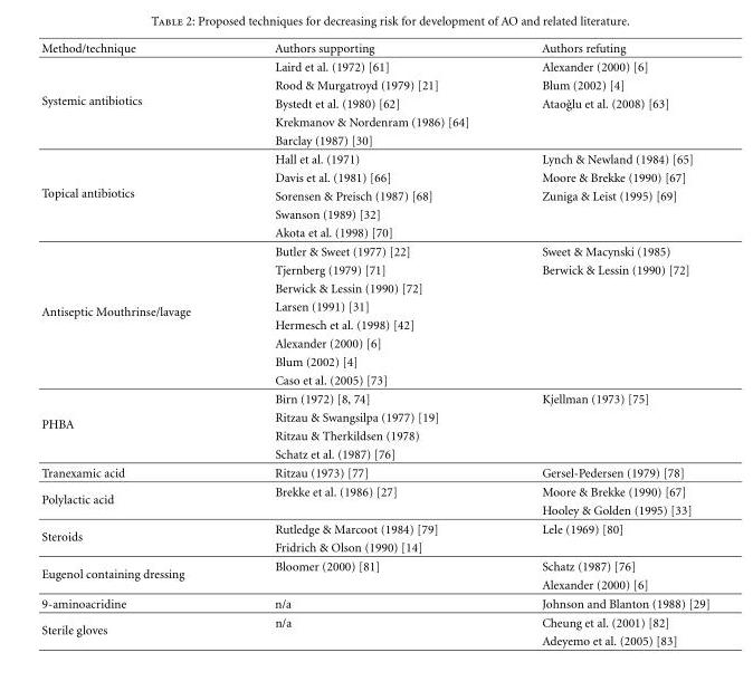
<table><thead><tr><td>Method/technique</td><td>Authors supporting</td><td>Authors refuting</td></tr></thead><tbody><tr><td rowspan="5">Systemic antibiotics</td><td>Laird et al. (1972) [61]</td><td>Alexander (2000) [6]</td></tr><tr><td>Rood &amp; Murgatroyd (1979) [21]</td><td>Blum (2002) [4]</td></tr><tr><td>Bystedt et al. (1980) [62]</td><td>Ataoˇglu et al. (2008) [63]</td></tr><tr><td>Krekmanov &amp; Nordenram (1986) [64]</td><td></td></tr><tr><td>Barclay (1987) [30]</td><td></td></tr><tr><td rowspan="5">Topical antibiotics</td><td>Hall et al. (1971)</td><td>Lynch &amp; Newland (1984) [65]</td></tr><tr><td>Davis et al. (1981) [66]</td><td>Moore &amp; Brekke (1990) [67]</td></tr><tr><td>Sorensen &amp; Preisch (1987) [68]</td><td>Zuniga &amp; Leist (1995) [69]</td></tr><tr><td>Swanson (1989) [32]</td><td></td></tr><tr><td>Akota et al. (1998) [70]</td><td></td></tr><tr><td rowspan="8">Antiseptic Mouthrinse/lavage</td><td>Butler &amp; Sweet (1977) [22]</td><td>Sweet &amp; Macynski (1985)</td></tr><tr><td>Tjernberg (1979) [71]</td><td>Berwick &amp; Lessin (1990) [72]</td></tr><tr><td>Berwick &amp; Lessin (1990) [72]</td><td></td></tr><tr><td>Larsen (1991) [31]</td><td></td></tr><tr><td>Hermesch et al. (1998) [42]</td><td></td></tr><tr><td>Alexander (2000) [6]</td><td></td></tr><tr><td>Blum (2002) [4]</td><td></td></tr><tr><td>Caso et al. (2005) [73]</td><td></td></tr><tr><td rowspan="4">PHBA</td><td>Birn (1972) [8, 74]</td><td>Kjellman (1973) [75]</td></tr><tr><td>Ritzau &amp; Swangsilpa (1977) [19]</td><td></td></tr><tr><td>Ritzau &amp; Therkildsen (1978)</td><td></td></tr><tr><td>Schatz et al. (1987) [76]</td><td></td></tr><tr><td>Tranexamic acid</td><td>Ritzau (1973) [77]</td><td>Gersel-Pedersen (1979) [78]</td></tr><tr><td rowspan="2">Polylactic acid</td><td>Brekke et al. (1986) [27]</td><td>Moore &amp; Brekke (1990) [67]</td></tr><tr><td></td><td>Hooley &amp; Golden (1995) [33]</td></tr><tr><td rowspan="2">Steroids</td><td>Rutledge &amp; Marcoot (1984) [79]</td><td>Lele (1969) [80]</td></tr><tr><td>Fridrich &amp; Olson (1990) [14]</td><td></td></tr><tr><td rowspan="2">Eugenol containing dressing</td><td>Bloomer (2000) [81]</td><td>Schatz (1987) [76]</td></tr><tr><td></td><td>Alexander (2000) [6]</td></tr><tr><td>9-aminoacridine</td><td>n/a</td><td>Johnson and Blanton (1988) [29]</td></tr><tr><td rowspan="2">Sterile gloves</td><td>n/a</td><td>Cheung et al. (2001) [82]</td></tr><tr><td></td><td>Adeyemo et al. (2005) [83]</td></tr></tbody></table>